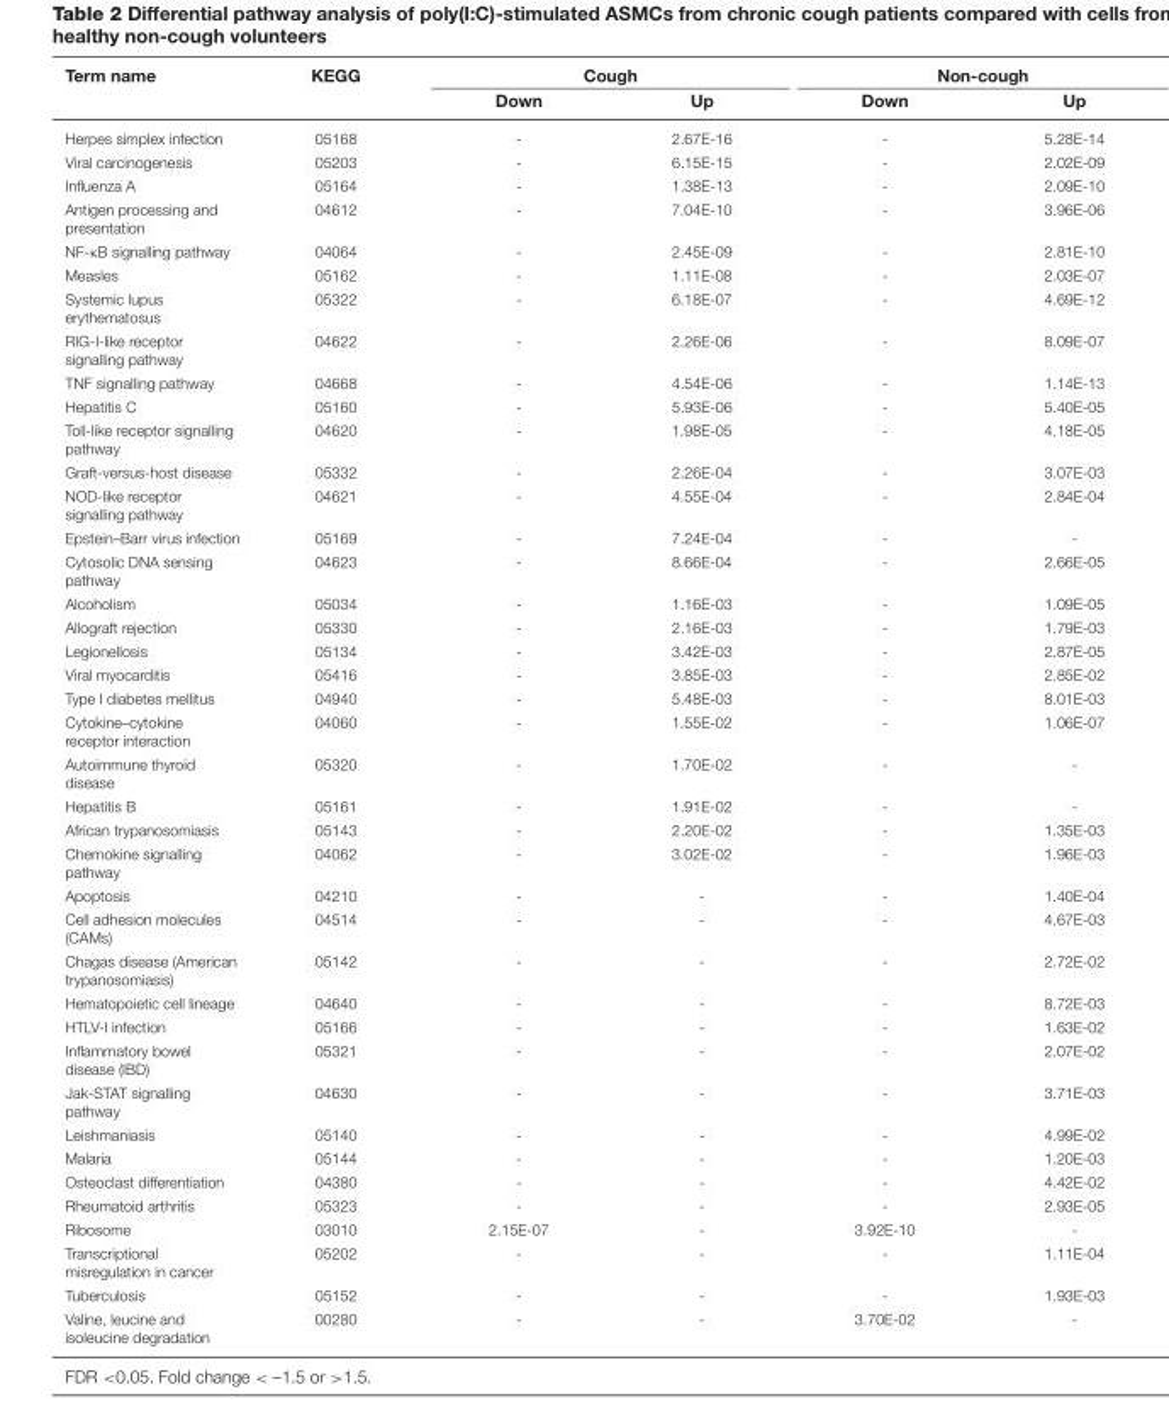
<table><thead><tr><td rowspan="2">Term name</td><td rowspan="2">KEGG</td><td colspan="2">Cough</td><td colspan="2">Non-cough</td></tr><tr><td>Down</td><td>Up</td><td>Down</td><td>Up</td></tr></thead><tbody><tr><td>Herpes simplex infection</td><td>05168</td><td>-</td><td>2.67E-16</td><td>-</td><td>5.28E-14</td></tr><tr><td>Viral carcinogenesis</td><td>05203</td><td>-</td><td>6.15E-15</td><td>-</td><td>2.02E-09</td></tr><tr><td>Influenza A</td><td>05164</td><td>-</td><td>1.38E-13</td><td>-</td><td>2.09E-10</td></tr><tr><td>Antigen processing and presentation</td><td>04612</td><td>-</td><td>7.04E-10</td><td>-</td><td>3.96E-06</td></tr><tr><td>NF-κB signalling pathway</td><td>04064</td><td>-</td><td>2.45E-09</td><td>-</td><td>2.81E-10</td></tr><tr><td>Measles</td><td>05162</td><td>-</td><td>1.11E-08</td><td>-</td><td>2.03E-07</td></tr><tr><td>Systemic lupus erythematosus</td><td>05322</td><td>-</td><td>6.18E-07</td><td>-</td><td>4.69E-12</td></tr><tr><td>RIG-I-like receptor signalling pathway</td><td>04622</td><td>-</td><td>2.26E-06</td><td>-</td><td>8.09E-07</td></tr><tr><td>TNF signalling pathway</td><td>04668</td><td>-</td><td>4.54E-06</td><td>-</td><td>1.14E-13</td></tr><tr><td>Hepatitis C</td><td>05160</td><td>-</td><td>5.93E-06</td><td>-</td><td>5.40E-05</td></tr><tr><td>Toll-like receptor signalling pathway</td><td>04620</td><td>-</td><td>1.98E-05</td><td>-</td><td>4.18E-05</td></tr><tr><td>Graft-versus-host disease</td><td>05332</td><td>-</td><td>2.26E-04</td><td>-</td><td>3.07E-03</td></tr><tr><td>NOD-like receptor signalling pathway</td><td>04621</td><td>-</td><td>4.55E-04</td><td>-</td><td>2.84E-04</td></tr><tr><td>Epstein–Barr virus infection</td><td>05169</td><td>-</td><td>7.24E-04</td><td>-</td><td>-</td></tr><tr><td>Cytosolic DNA sensing pathway</td><td>04623</td><td>-</td><td>8.66E-04</td><td>-</td><td>2.66E-05</td></tr><tr><td>Alcoholism</td><td>05034</td><td>-</td><td>1.16E-03</td><td>-</td><td>1.09E-05</td></tr><tr><td>Allograft rejection</td><td>05330</td><td>-</td><td>2.16E-03</td><td>-</td><td>1.79E-03</td></tr><tr><td>Legionellosis</td><td>05134</td><td>-</td><td>3.42E-03</td><td>-</td><td>2.87E-05</td></tr><tr><td>Viral myocarditis</td><td>05416</td><td>-</td><td>3.85E-03</td><td>-</td><td>2.85E-02</td></tr><tr><td>Type I diabetes mellitus</td><td>04940</td><td>-</td><td>5.48E-03</td><td>-</td><td>8.01E-03</td></tr><tr><td>Cytokine–cytokine receptor interaction</td><td>04060</td><td>-</td><td>1.55E-02</td><td>-</td><td>1.06E-07</td></tr><tr><td>Autoimmune thyroid disease</td><td>05320</td><td>-</td><td>1.70E-02</td><td>-</td><td>-</td></tr><tr><td>Hepatitis B</td><td>05161</td><td>-</td><td>1.91E-02</td><td>-</td><td>-</td></tr><tr><td>African trypanosomiasis</td><td>05143</td><td>-</td><td>2.20E-02</td><td>-</td><td>1.35E-03</td></tr><tr><td>Chemokine signalling pathway</td><td>04062</td><td>-</td><td>3.02E-02</td><td>-</td><td>1.96E-03</td></tr><tr><td>Apoptosis</td><td>04210</td><td>-</td><td>-</td><td>-</td><td>1.40E-04</td></tr><tr><td>Cell adhesion molecules (CAMs)</td><td>04514</td><td>-</td><td>-</td><td>-</td><td>4.67E-03</td></tr><tr><td>Chagas disease (American trypanosomiasis)</td><td>05142</td><td>-</td><td>-</td><td>-</td><td>2.72E-02</td></tr><tr><td>Hematopoietic cell lineage</td><td>04640</td><td>-</td><td>-</td><td>-</td><td>8.72E-03</td></tr><tr><td>HTLV-I infection</td><td>05166</td><td>-</td><td>-</td><td>-</td><td>1.63E-02</td></tr><tr><td>Inflammatory bowel disease (IBD)</td><td>05321</td><td>-</td><td>-</td><td>-</td><td>2.07E-02</td></tr><tr><td>Jak-STAT signalling pathway</td><td>04630</td><td>-</td><td>-</td><td>-</td><td>3.71E-03</td></tr><tr><td>Leishmaniasis</td><td>05140</td><td>-</td><td>-</td><td>-</td><td>4.99E-02</td></tr><tr><td>Malaria</td><td>05144</td><td>-</td><td>-</td><td>-</td><td>1.20E-03</td></tr><tr><td>Osteoclast differentiation</td><td>04380</td><td>-</td><td>-</td><td>-</td><td>4.42E-02</td></tr><tr><td>Rheumatoid arthritis</td><td>05323</td><td>-</td><td>-</td><td>-</td><td>2.93E-05</td></tr><tr><td>Ribosome</td><td>03010</td><td>2.15E-07</td><td>-</td><td>3.92E-10</td><td>-</td></tr><tr><td>Transcriptional misregulation in cancer</td><td>05202</td><td>-</td><td>-</td><td>-</td><td>1.11E-04</td></tr><tr><td>Tuberculosis</td><td>05152</td><td>-</td><td>-</td><td>-</td><td>1.93E-03</td></tr><tr><td>Valine, leucine and isoleucine degradation</td><td>00280</td><td>-</td><td>-</td><td>3.70E-02</td><td>-</td></tr></tbody></table>